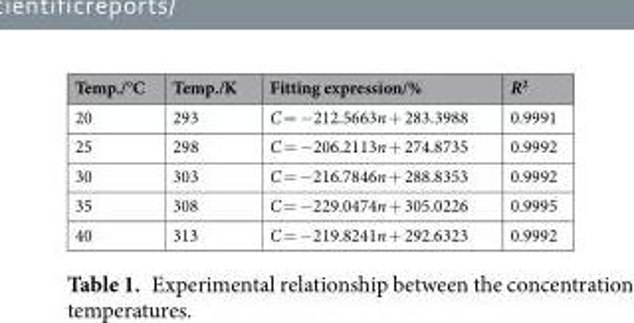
<table><thead><tr><td>Temp./°C</td><td>Temp./K</td><td>Fitting expression/%</td><td>R<sup>2</sup></td></tr></thead><tbody><tr><td>20</td><td>293</td><td>C = −212.5663n + 283.3988</td><td>0.9991</td></tr><tr><td>25</td><td>298</td><td>C = −206.2113n + 274.8735</td><td>0.9992</td></tr><tr><td>30</td><td>303</td><td>C = −216.7846n + 288.8353</td><td>0.9992</td></tr><tr><td>35</td><td>308</td><td>C = −229.0474n + 305.0226</td><td>0.9995</td></tr><tr><td>40</td><td>313</td><td>C = −219.8241n + 292.6323</td><td>0.9992</td></tr></tbody></table>